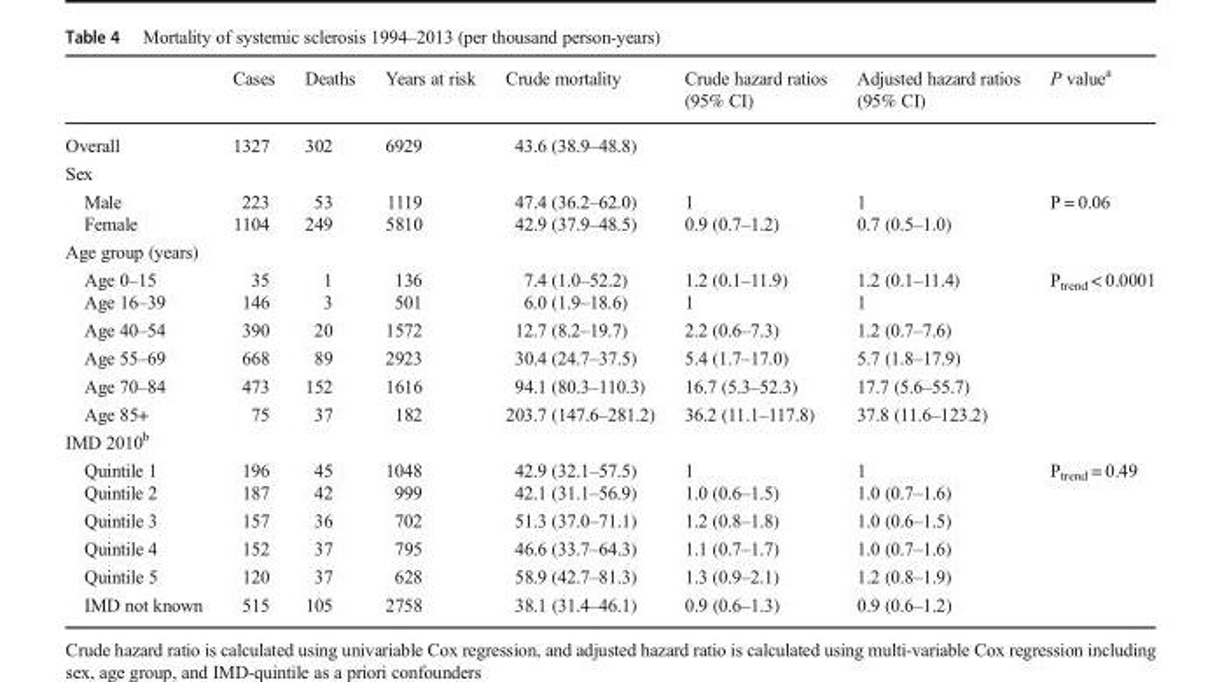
<table><thead><tr><td></td><td>Cases</td><td>Deaths</td><td>Years at risk</td><td>Crude mortality</td><td>Crude hazard ratios (95% CI)</td><td>Adjusted hazard ratios (95% CI)</td><td>P value<sup>a</sup></td></tr></thead><tbody><tr><td>Overall</td><td>1327</td><td>302</td><td>6929</td><td>43.6 (38.9–48.8)</td><td></td><td></td><td></td></tr><tr><td colspan="8">Sex</td></tr><tr><td>Male</td><td>223</td><td>53</td><td>1119</td><td>47.4 (36.2–62.0)</td><td>1</td><td>1</td><td rowspan="2">P = 0.06</td></tr><tr><td>Female</td><td>1104</td><td>249</td><td>5810</td><td>42.9 (37.9–48.5)</td><td>0.9 (0.7–1.2)</td><td>0.7 (0.5–1.0)</td></tr><tr><td colspan="8">Age group (years)</td></tr><tr><td>Age 0–15</td><td>35</td><td>1</td><td>136</td><td>7.4 (1.0–52.2)</td><td>1.2 (0.1–11.9)</td><td>1.2 (0.1–11.4)</td><td rowspan="6">P<sub>trend</sub> &lt; 0.0001</td></tr><tr><td>Age 16–39</td><td>146</td><td>3</td><td>501</td><td>6.0 (1.9–18.6)</td><td>1</td><td>1</td></tr><tr><td>Age 40–54</td><td>390</td><td>20</td><td>1572</td><td>12.7 (8.2–19.7)</td><td>2.2 (0.6–7.3)</td><td>1.2 (0.7–7.6)</td></tr><tr><td>Age 55–69</td><td>668</td><td>89</td><td>2923</td><td>30.4 (24.7–37.5)</td><td>5.4 (1.7–17.0)</td><td>5.7 (1.8–17.9)</td></tr><tr><td>Age 70–84</td><td>473</td><td>152</td><td>1616</td><td>94.1 (80.3–110.3)</td><td>16.7 (5.3–52.3)</td><td>17.7 (5.6–55.7)</td></tr><tr><td>Age 85+</td><td>75</td><td>37</td><td>182</td><td>203.7 (147.6–281.2)</td><td>36.2 (11.1–117.8)</td><td>37.8 (11.6–123.2)</td></tr><tr><td colspan="8">IMD 2010<sup>b</sup></td></tr><tr><td>Quintile 1</td><td>196</td><td>45</td><td>1048</td><td>42.9 (32.1–57.5)</td><td>1</td><td>1</td><td rowspan="5">P<sub>trend</sub> = 0.49</td></tr><tr><td>Quintile 2</td><td>187</td><td>42</td><td>999</td><td>42.1 (31.1–56.9)</td><td>1.0 (0.6–1.5)</td><td>1.0 (0.7–1.6)</td></tr><tr><td>Quintile 3</td><td>157</td><td>36</td><td>702</td><td>51.3 (37.0–71.1)</td><td>1.2 (0.8–1.8)</td><td>1.0 (0.6–1.5)</td></tr><tr><td>Quintile 4</td><td>152</td><td>37</td><td>795</td><td>46.6 (33.7–64.3)</td><td>1.1 (0.7–1.7)</td><td>1.0 (0.7–1.6)</td></tr><tr><td>Quintile 5</td><td>120</td><td>37</td><td>628</td><td>58.9 (42.7–81.3)</td><td>1.3 (0.9–2.1)</td><td>1.2 (0.8–1.9)</td></tr><tr><td>IMD not known</td><td>515</td><td>105</td><td>2758</td><td>38.1 (31.4–46.1)</td><td>0.9 (0.6–1.3)</td><td>0.9 (0.6–1.2)</td><td></td></tr></tbody></table>